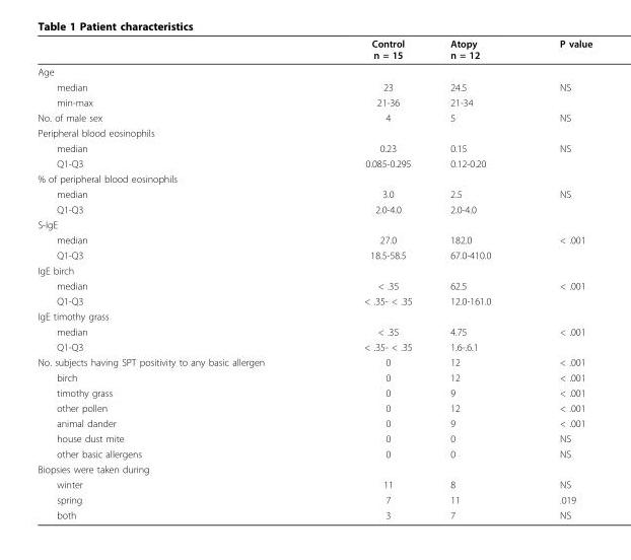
<table><thead><tr><td></td><td>Control n = 15</td><td>Atopy n = 12</td><td>P value</td></tr></thead><tbody><tr><td colspan="4">Age</td></tr><tr><td>median</td><td>23</td><td>24.5</td><td>NS</td></tr><tr><td>min-max</td><td>21-36</td><td>21-34</td><td></td></tr><tr><td>No. of male sex</td><td>4</td><td>5</td><td>NS</td></tr><tr><td colspan="4">Peripheral blood eosinophils</td></tr><tr><td>median</td><td>0.23</td><td>0.15</td><td>NS</td></tr><tr><td>Q1-Q3</td><td>0.085-0.295</td><td>0.12-0.20</td><td></td></tr><tr><td colspan="4">% of peripheral blood eosinophils</td></tr><tr><td>median</td><td>3.0</td><td>2.5</td><td>NS</td></tr><tr><td>Q1-Q3</td><td>2.0-4.0</td><td>2.0-4.0</td><td></td></tr><tr><td colspan="4">S-IgE</td></tr><tr><td>median</td><td>27.0</td><td>182.0</td><td>&lt; .001</td></tr><tr><td>Q1-Q3</td><td>18.5-58.5</td><td>67.0-410.0</td><td></td></tr><tr><td colspan="4">IgE birch</td></tr><tr><td>median</td><td>&lt; .35</td><td>62.5</td><td>&lt; .001</td></tr><tr><td>Q1-Q3</td><td>&lt; .35- &lt; .35</td><td>12.0-161.0</td><td></td></tr><tr><td colspan="4">IgE timothy grass</td></tr><tr><td>median</td><td>&lt; .35</td><td>4.75</td><td>&lt; .001</td></tr><tr><td>Q1-Q3</td><td>&lt; .35- &lt; .35</td><td>1.6-.6.1</td><td></td></tr><tr><td>No. subjects having SPT positivity to any basic allergen</td><td>0</td><td>12</td><td>&lt; .001</td></tr><tr><td>birch</td><td>0</td><td>12</td><td>&lt; .001</td></tr><tr><td>timothy grass</td><td>0</td><td>9</td><td>&lt; .001</td></tr><tr><td>other pollen</td><td>0</td><td>12</td><td>&lt; .001</td></tr><tr><td>animal dander</td><td>0</td><td>9</td><td>&lt; .001</td></tr><tr><td>house dust mite</td><td>0</td><td>0</td><td>NS</td></tr><tr><td>other basic allergens</td><td>0</td><td>0</td><td>NS</td></tr><tr><td colspan="4">Biopsies were taken during</td></tr><tr><td>winter</td><td>11</td><td>8</td><td>NS</td></tr><tr><td>spring</td><td>7</td><td>11</td><td>.019</td></tr><tr><td>both</td><td>3</td><td>7</td><td>NS</td></tr></tbody></table>